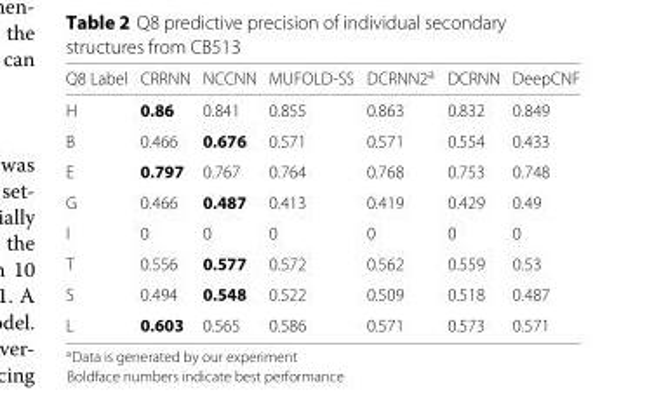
<table><thead><tr><td>Q8 Label</td><td>CRRNN</td><td>NCCNN</td><td>MUFOLD-SS</td><td>DCRNN2<sup>a</sup></td><td>DCRNN</td><td>DeepCNF</td></tr></thead><tbody><tr><td>H</td><td>0.86</td><td>0.841</td><td>0.855</td><td>0.863</td><td>0.832</td><td>0.849</td></tr><tr><td>B</td><td>0.466</td><td>0.676</td><td>0.571</td><td>0.571</td><td>0.554</td><td>0.433</td></tr><tr><td>E</td><td>0.797</td><td>0.767</td><td>0.764</td><td>0.768</td><td>0.753</td><td>0.748</td></tr><tr><td>G</td><td>0.466</td><td>0.487</td><td>0.413</td><td>0.419</td><td>0.429</td><td>0.49</td></tr><tr><td>I</td><td>0</td><td>0</td><td>0</td><td>0</td><td>0</td><td>0</td></tr><tr><td>T</td><td>0.556</td><td>0.577</td><td>0.572</td><td>0.562</td><td>0.559</td><td>0.53</td></tr><tr><td>S</td><td>0.494</td><td>0.548</td><td>0.522</td><td>0.509</td><td>0.518</td><td>0.487</td></tr><tr><td>L</td><td>0.603</td><td>0.565</td><td>0.586</td><td>0.571</td><td>0.573</td><td>0.571</td></tr></tbody></table>